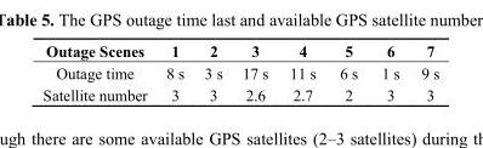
<table><thead><tr><td>Outage Scenes</td><td>1</td><td>2</td><td>3</td><td>4</td><td>5</td><td>6</td><td>7</td></tr></thead><tbody><tr><td>Outage time</td><td>8 s</td><td>3 s</td><td>17 s</td><td>11 s</td><td>6 s</td><td>1 s</td><td>9 s</td></tr><tr><td>Satellite number</td><td>3</td><td>3</td><td>2.6</td><td>2.7</td><td>2</td><td>3</td><td>3</td></tr></tbody></table>